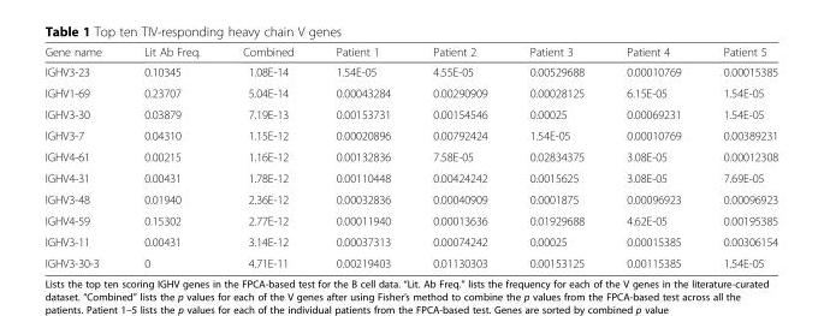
<table><thead><tr><td>Gene name</td><td>Lit Ab Freq.</td><td>Combined</td><td>Patient 1</td><td>Patient 2</td><td>Patient 3</td><td>Patient 4</td><td>Patient 5</td></tr></thead><tbody><tr><td>IGHV3-23</td><td>0.10345</td><td>1.08E-14</td><td>1.54E-05</td><td>4.55E-05</td><td>0.00529688</td><td>0.00010769</td><td>0.00015385</td></tr><tr><td>IGHV1-69</td><td>0.23707</td><td>5.04E-14</td><td>0.00043284</td><td>0.00290909</td><td>0.00028125</td><td>6.15E-05</td><td>1.54E-05</td></tr><tr><td>IGHV3-30</td><td>0.03879</td><td>7.19E-13</td><td>0.00153731</td><td>0.00154546</td><td>0.00025</td><td>0.00069231</td><td>1.54E-05</td></tr><tr><td>IGHV3-7</td><td>0.04310</td><td>1.15E-12</td><td>0.00020896</td><td>0.00792424</td><td>1.54E-05</td><td>0.00010769</td><td>0.00389231</td></tr><tr><td>IGHV4-61</td><td>0.00215</td><td>1.16E-12</td><td>0.00132836</td><td>7.58E-05</td><td>0.02834375</td><td>3.08E-05</td><td>0.00012308</td></tr><tr><td>IGHV4-31</td><td>0.00431</td><td>1.78E-12</td><td>0.00110448</td><td>0.00424242</td><td>0.0015625</td><td>3.08E-05</td><td>7.69E-05</td></tr><tr><td>IGHV3-48</td><td>0.01940</td><td>2.36E-12</td><td>0.00032836</td><td>0.00040909</td><td>0.0001875</td><td>0.00096923</td><td>0.00096923</td></tr><tr><td>IGHV4-59</td><td>0.15302</td><td>2.77E-12</td><td>0.00011940</td><td>0.00013636</td><td>0.01929688</td><td>4.62E-05</td><td>0.00195385</td></tr><tr><td>IGHV3-11</td><td>0.00431</td><td>3.14E-12</td><td>0.00037313</td><td>0.00074242</td><td>0.00025</td><td>0.00015385</td><td>0.00306154</td></tr><tr><td>IGHV3-30-3</td><td>0</td><td>4.71E-11</td><td>0.00219403</td><td>0.01130303</td><td>0.00153125</td><td>0.00115385</td><td>1.54E-05</td></tr></tbody></table>